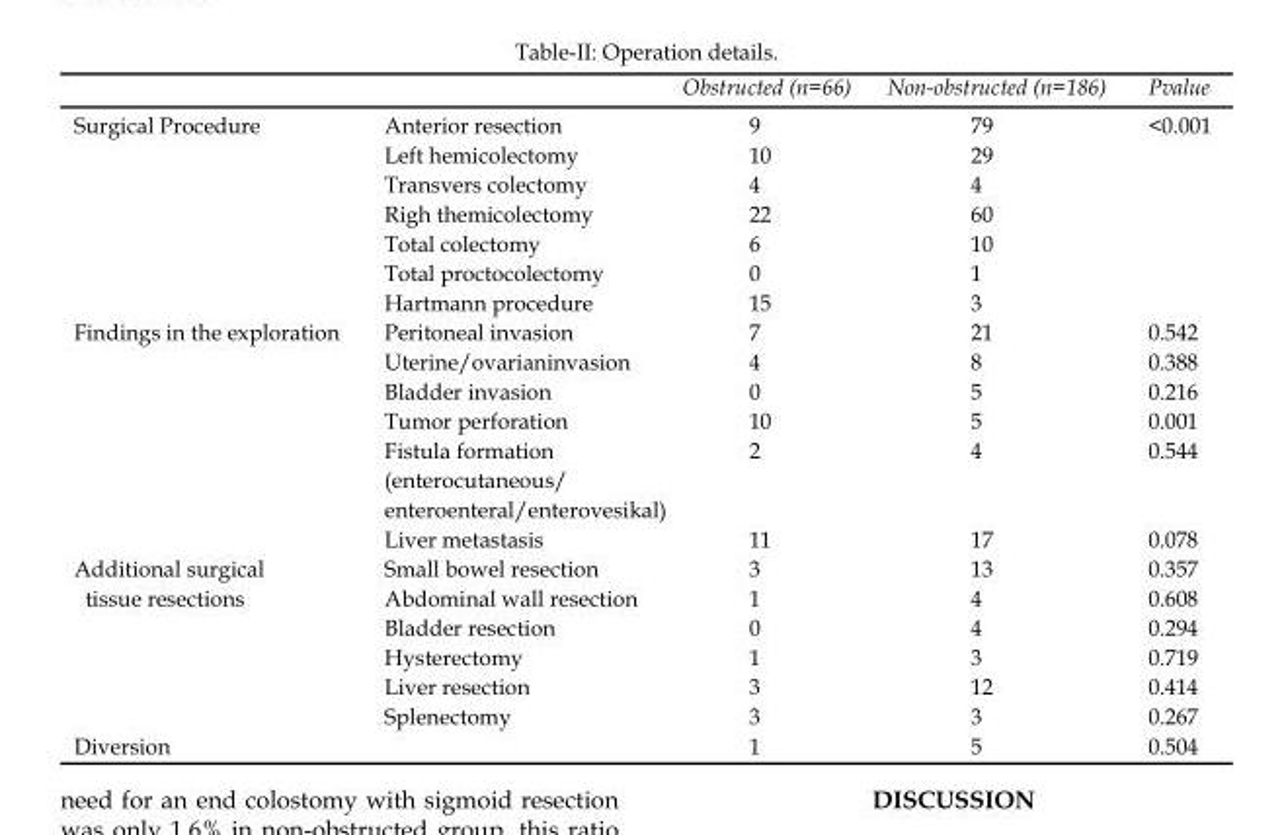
<table><thead><tr><td></td><td></td><td>Obstructed (n=66)</td><td>Non-obstructed (n=186)</td><td>Pvalue</td></tr></thead><tbody><tr><td rowspan="7">Surgical Procedure</td><td>Anterior resection</td><td>9</td><td>79</td><td rowspan="7">&lt;0.001</td></tr><tr><td>Left hemicolectomy</td><td>10</td><td>29</td></tr><tr><td>Transvers colectomy</td><td>4</td><td>4</td></tr><tr><td>Righ themicolectomy</td><td>22</td><td>60</td></tr><tr><td>Total colectomy</td><td>6</td><td>10</td></tr><tr><td>Total proctocolectomy</td><td>0</td><td>1</td></tr><tr><td>Hartmann procedure</td><td>15</td><td>3</td></tr><tr><td rowspan="6">Findings in the exploration</td><td>Peritoneal invasion</td><td>7</td><td>21</td><td>0.542</td></tr><tr><td>Uterine/ovarianinvasion</td><td>4</td><td>8</td><td>0.388</td></tr><tr><td>Bladder invasion</td><td>0</td><td>5</td><td>0.216</td></tr><tr><td>Tumor perforation</td><td>10</td><td>5</td><td>0.001</td></tr><tr><td>Fistula formation (enterocutaneous/ enteroenteral/enterovesikal)</td><td>2</td><td>4</td><td>0.544</td></tr><tr><td>Liver metastasis</td><td>11</td><td>17</td><td>0.078</td></tr><tr><td rowspan="6">Additional surgical tissue resections</td><td>Small bowel resection</td><td>3</td><td>13</td><td>0.357</td></tr><tr><td>Abdominal wall resection</td><td>1</td><td>4</td><td>0.608</td></tr><tr><td>Bladder resection</td><td>0</td><td>4</td><td>0.294</td></tr><tr><td>Hysterectomy</td><td>1</td><td>3</td><td>0.719</td></tr><tr><td>Liver resection</td><td>3</td><td>12</td><td>0.414</td></tr><tr><td>Splenectomy</td><td>3</td><td>3</td><td>0.267</td></tr><tr><td colspan="2">Diversion</td><td>1</td><td>5</td><td>0.504</td></tr></tbody></table>